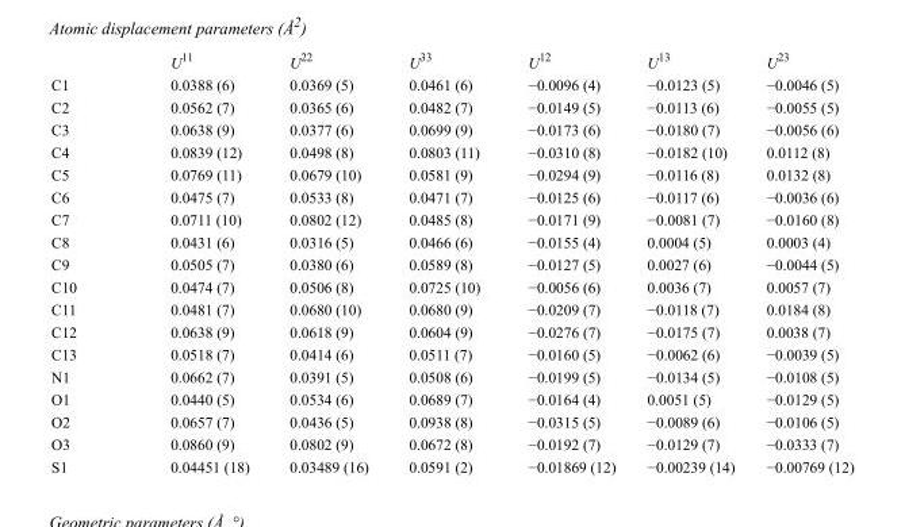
<table><thead><tr><td></td><td>U<sup>11</sup></td><td>U<sup>22</sup></td><td>U<sup>33</sup></td><td>U<sup>12</sup></td><td>U<sup>13</sup></td><td>U<sup>23</sup></td></tr></thead><tbody><tr><td>C1</td><td>0.0388 (6)</td><td>0.0369 (5)</td><td>0.0461 (6)</td><td>−0.0096 (4)</td><td>−0.0123 (5)</td><td>−0.0046 (5)</td></tr><tr><td>C2</td><td>0.0562 (7)</td><td>0.0365 (6)</td><td>0.0482 (7)</td><td>−0.0149 (5)</td><td>−0.0113 (6)</td><td>−0.0055 (5)</td></tr><tr><td>C3</td><td>0.0638 (9)</td><td>0.0377 (6)</td><td>0.0699 (9)</td><td>−0.0173 (6)</td><td>−0.0180 (7)</td><td>−0.0056 (6)</td></tr><tr><td>C4</td><td>0.0839 (12)</td><td>0.0498 (8)</td><td>0.0803 (11)</td><td>−0.0310 (8)</td><td>−0.0182 (10)</td><td>0.0112 (8)</td></tr><tr><td>C5</td><td>0.0769 (11)</td><td>0.0679 (10)</td><td>0.0581 (9)</td><td>−0.0294 (9)</td><td>−0.0116 (8)</td><td>0.0132 (8)</td></tr><tr><td>C6</td><td>0.0475 (7)</td><td>0.0533 (8)</td><td>0.0471 (7)</td><td>−0.0125 (6)</td><td>−0.0117 (6)</td><td>−0.0036 (6)</td></tr><tr><td>C7</td><td>0.0711 (10)</td><td>0.0802 (12)</td><td>0.0485 (8)</td><td>−0.0171 (9)</td><td>−0.0081 (7)</td><td>−0.0160 (8)</td></tr><tr><td>C8</td><td>0.0431 (6)</td><td>0.0316 (5)</td><td>0.0466 (6)</td><td>−0.0155 (4)</td><td>0.0004 (5)</td><td>0.0003 (4)</td></tr><tr><td>C9</td><td>0.0505 (7)</td><td>0.0380 (6)</td><td>0.0589 (8)</td><td>−0.0127 (5)</td><td>0.0027 (6)</td><td>−0.0044 (5)</td></tr><tr><td>C10</td><td>0.0474 (7)</td><td>0.0506 (8)</td><td>0.0725 (10)</td><td>−0.0056 (6)</td><td>0.0036 (7)</td><td>0.0057 (7)</td></tr><tr><td>C11</td><td>0.0481 (7)</td><td>0.0680 (10)</td><td>0.0680 (9)</td><td>−0.0209 (7)</td><td>−0.0118 (7)</td><td>0.0184 (8)</td></tr><tr><td>C12</td><td>0.0638 (9)</td><td>0.0618 (9)</td><td>0.0604 (9)</td><td>−0.0276 (7)</td><td>−0.0175 (7)</td><td>0.0038 (7)</td></tr><tr><td>C13</td><td>0.0518 (7)</td><td>0.0414 (6)</td><td>0.0511 (7)</td><td>−0.0160 (5)</td><td>−0.0062 (6)</td><td>−0.0039 (5)</td></tr><tr><td>N1</td><td>0.0662 (7)</td><td>0.0391 (5)</td><td>0.0508 (6)</td><td>−0.0199 (5)</td><td>−0.0134 (5)</td><td>−0.0108 (5)</td></tr><tr><td>O1</td><td>0.0440 (5)</td><td>0.0534 (6)</td><td>0.0689 (7)</td><td>−0.0164 (4)</td><td>0.0051 (5)</td><td>−0.0129 (5)</td></tr><tr><td>O2</td><td>0.0657 (7)</td><td>0.0436 (5)</td><td>0.0938 (8)</td><td>−0.0315 (5)</td><td>−0.0089 (6)</td><td>−0.0106 (5)</td></tr><tr><td>O3</td><td>0.0860 (9)</td><td>0.0802 (9)</td><td>0.0672 (8)</td><td>−0.0192 (7)</td><td>−0.0129 (7)</td><td>−0.0333 (7)</td></tr><tr><td>S1</td><td>0.04451 (18)</td><td>0.03489 (16)</td><td>0.0591 (2)</td><td>−0.01869 (12)</td><td>−0.00239 (14)</td><td>−0.00769 (12)</td></tr></tbody></table>